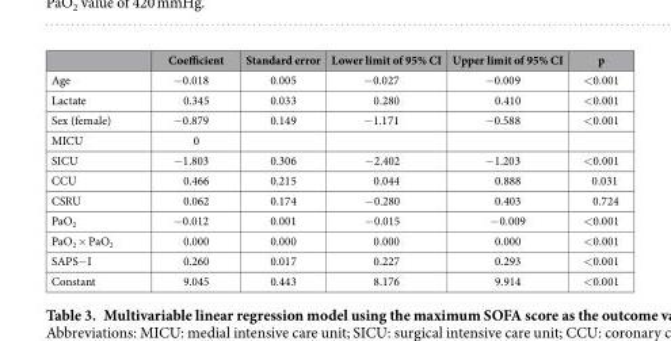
<table><thead><tr><td></td><td>Coefficient</td><td>Standard error</td><td>Lower limit of 95% CI</td><td>Upper limit of 95% CI</td><td>p</td></tr></thead><tbody><tr><td>Age</td><td>− 0.018</td><td>0.005</td><td>− 0.027</td><td>− 0.009</td><td>&lt; 0.001</td></tr><tr><td>Lactate</td><td>0.345</td><td>0.033</td><td>0.280</td><td>0.410</td><td>&lt; 0.001</td></tr><tr><td>Sex (female)</td><td>− 0.879</td><td>0.149</td><td>− 1.171</td><td>− 0.588</td><td>&lt; 0.001</td></tr><tr><td>MICU</td><td>0</td><td></td><td></td><td></td><td></td></tr><tr><td>SICU</td><td>− 1.803</td><td>0.306</td><td>− 2.402</td><td>− 1.203</td><td>&lt; 0.001</td></tr><tr><td>CCU</td><td>0.466</td><td>0.215</td><td>0.044</td><td>0.888</td><td>0.031</td></tr><tr><td>CSRU</td><td>0.062</td><td>0.174</td><td>− 0.280</td><td>0.403</td><td>0.724</td></tr><tr><td>PaO<sub>2</sub></td><td>− 0.012</td><td>0.001</td><td>− 0.015</td><td>− 0.009</td><td>&lt; 0.001</td></tr><tr><td>PaO<sub>2</sub> × PaO<sub>2</sub></td><td>0.000</td><td>0.000</td><td>0.000</td><td>0.000</td><td>&lt; 0.001</td></tr><tr><td>SAPS− I</td><td>0.260</td><td>0.017</td><td>0.227</td><td>0.293</td><td>&lt; 0.001</td></tr><tr><td>Constant</td><td>9.045</td><td>0.443</td><td>8.176</td><td>9.914</td><td>&lt; 0.001</td></tr></tbody></table>